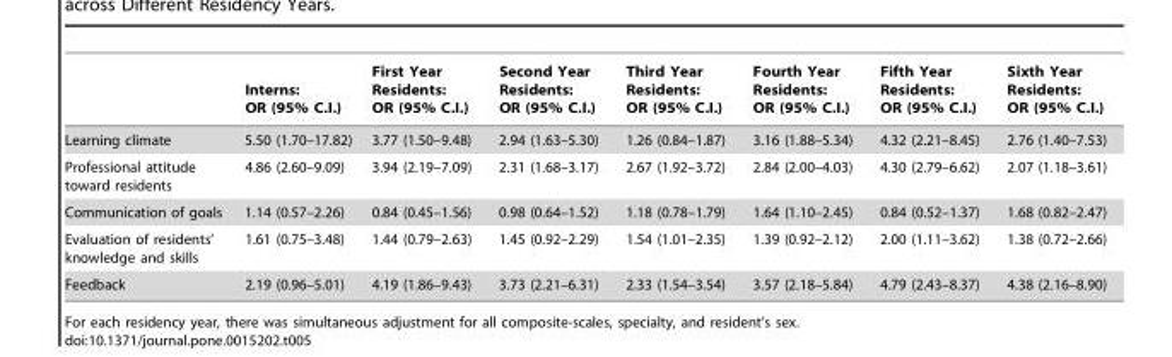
<table><thead><tr><td></td><td>Interns: OR (95% C.I.)</td><td>First Year Residents: OR (95% C.I.)</td><td>Second Year Residents: OR (95% C.I.)</td><td>Third Year Residents: OR (95% C.I.)</td><td>Fourth Year Residents: OR (95% C.I.)</td><td>Fifth Year Residents: OR (95% C.I.)</td><td>Sixth Year Residents: OR (95% C.I.)</td></tr></thead><tbody><tr><td>Learning climate</td><td>5.50 (1.70–17.82)</td><td>3.77 (1.50–9.48)</td><td>2.94 (1.63–5.30)</td><td>1.26 (0.84–1.87)</td><td>3.16 (1.88–5.34)</td><td>4.32 (2.21–8.45)</td><td>2.76 (1.40–7.53)</td></tr><tr><td>Professional attitude toward residents</td><td>4.86 (2.60–9.09)</td><td>3.94 (2.19–7.09)</td><td>2.31 (1.68–3.17)</td><td>2.67 (1.92–3.72)</td><td>2.84 (2.00–4.03)</td><td>4.30 (2.79–6.62)</td><td>2.07 (1.18–3.61)</td></tr><tr><td>Communication of goals</td><td>1.14 (0.57–2.26)</td><td>0.84 (0.45–1.56)</td><td>0.98 (0.64–1.52)</td><td>1.18 (0.78–1.79)</td><td>1.64 (1.10–2.45)</td><td>0.84 (0.52–1.37)</td><td>1.68 (0.82–2.47)</td></tr><tr><td>Evaluation of residents’ knowledge and skills</td><td>1.61 (0.75–3.48)</td><td>1.44 (0.79–2.63)</td><td>1.45 (0.92–2.29)</td><td>1.54 (1.01–2.35)</td><td>1.39 (0.92–2.12)</td><td>2.00 (1.11–3.62)</td><td>1.38 (0.72–2.66)</td></tr><tr><td>Feedback</td><td>2.19 (0.96–5.01)</td><td>4.19 (1.86–9.43)</td><td>3.73 (2.21–6.31)</td><td>2.33 (1.54–3.54)</td><td>3.57 (2.18–5.84)</td><td>4.79 (2.43–8.37)</td><td>4.38 (2.16–8.90)</td></tr></tbody></table>